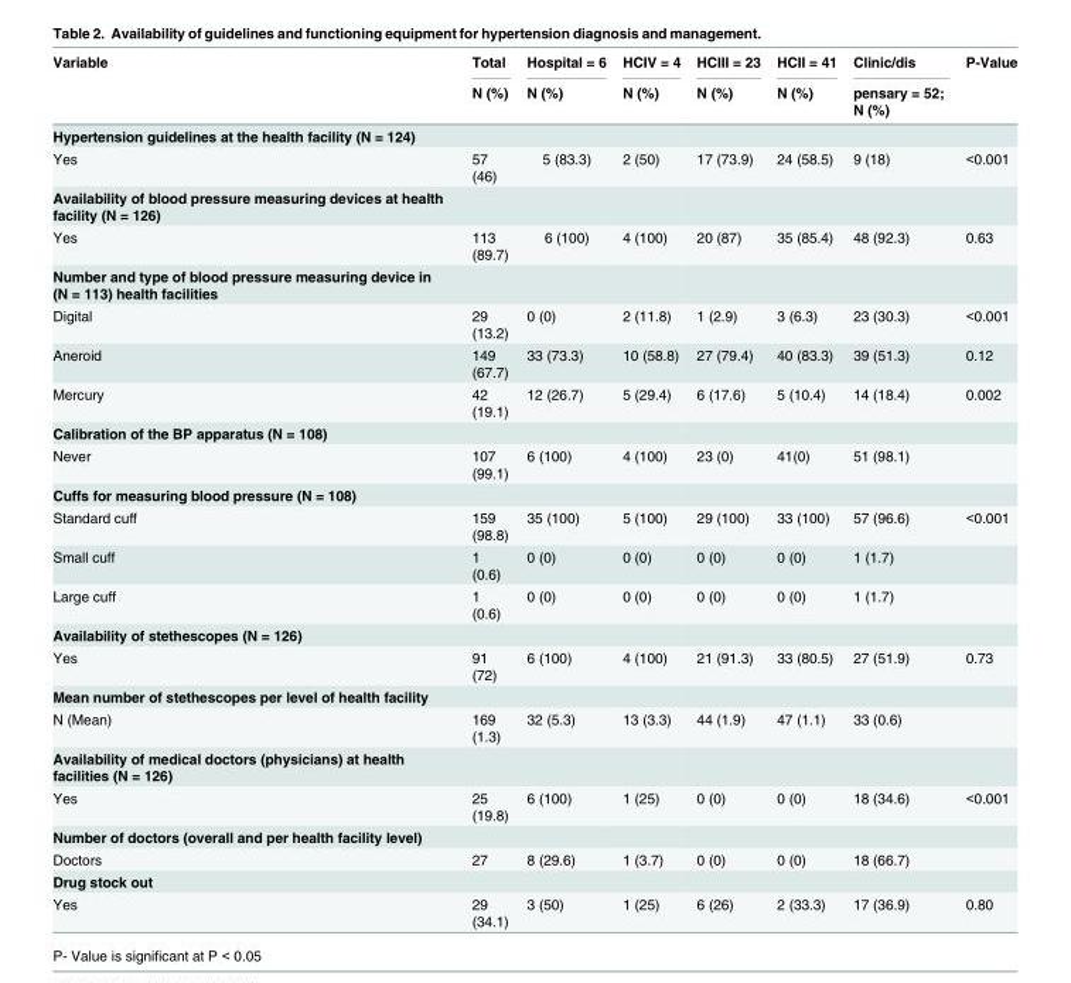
<table><thead><tr><td rowspan="2">Variable</td><td rowspan="2">Total N (%)</td><td rowspan="2">Hospital = 6 N (%)</td><td rowspan="2">HCIV = 4 N (%)</td><td rowspan="2">HCIII = 23 N (%)</td><td rowspan="2">HCII = 41 N (%)</td><td rowspan="2">Clinic/dis pensary = 52; N (%)</td><td rowspan="2">P-Value</td></tr><tr></tr></thead><tbody><tr><td colspan="8">Hypertension guidelines at the health facility (N = 124)</td></tr><tr><td>Yes</td><td>57 (46)</td><td>5 (83.3)</td><td>2 (50)</td><td>17 (73.9)</td><td>24 (58.5)</td><td>9 (18)</td><td>&lt;0.001</td></tr><tr><td colspan="8">Availability of blood pressure measuring devices at health facility (N = 126)</td></tr><tr><td>Yes</td><td>113 (89.7)</td><td>6 (100)</td><td>4 (100)</td><td>20 (87)</td><td>35 (85.4)</td><td>48 (92.3)</td><td>0.63</td></tr><tr><td colspan="8">Number and type of blood pressure measuring device in (N = 113) health facilities</td></tr><tr><td>Digital</td><td>29 (13.2)</td><td>0 (0)</td><td>2 (11.8)</td><td>1 (2.9)</td><td>3 (6.3)</td><td>23 (30.3)</td><td>&lt;0.001</td></tr><tr><td>Aneroid</td><td>149 (67.7)</td><td>33 (73.3)</td><td>10 (58.8)</td><td>27 (79.4)</td><td>40 (83.3)</td><td>39 (51.3)</td><td>0.12</td></tr><tr><td>Mercury</td><td>42 (19.1)</td><td>12 (26.7)</td><td>5 (29.4)</td><td>6 (17.6)</td><td>5 (10.4)</td><td>14 (18.4)</td><td>0.002</td></tr><tr><td colspan="8">Calibration of the BP apparatus (N = 108)</td></tr><tr><td>Never</td><td>107 (99.1)</td><td>6 (100)</td><td>4 (100)</td><td>23 (0)</td><td>41(0)</td><td>51 (98.1)</td><td></td></tr><tr><td colspan="8">Cuffs for measuring blood pressure (N = 108)</td></tr><tr><td>Standard cuff</td><td>159 (98.8)</td><td>35 (100)</td><td>5 (100)</td><td>29 (100)</td><td>33 (100)</td><td>57 (96.6)</td><td>&lt;0.001</td></tr><tr><td>Small cuff</td><td>1 (0.6)</td><td>0 (0)</td><td>0 (0)</td><td>0 (0)</td><td>0 (0)</td><td>1 (1.7)</td><td></td></tr><tr><td>Large cuff</td><td>1 (0.6)</td><td>0 (0)</td><td>0 (0)</td><td>0 (0)</td><td>0 (0)</td><td>1 (1.7)</td><td></td></tr><tr><td colspan="8">Availability of stethescopes (N = 126)</td></tr><tr><td>Yes</td><td>91 (72)</td><td>6 (100)</td><td>4 (100)</td><td>21 (91.3)</td><td>33 (80.5)</td><td>27 (51.9)</td><td>0.73</td></tr><tr><td colspan="8">Mean number of stethescopes per level of health facility</td></tr><tr><td>N (Mean)</td><td>169 (1.3)</td><td>32 (5.3)</td><td>13 (3.3)</td><td>44 (1.9)</td><td>47 (1.1)</td><td>33 (0.6)</td><td></td></tr><tr><td colspan="8">Availability of medical doctors (physicians) at health facilities (N = 126)</td></tr><tr><td>Yes</td><td>25 (19.8)</td><td>6 (100)</td><td>1 (25)</td><td>0 (0)</td><td>0 (0)</td><td>18 (34.6)</td><td>&lt;0.001</td></tr><tr><td colspan="8">Number of doctors (overall and per health facility level)</td></tr><tr><td>Doctors</td><td>27</td><td>8 (29.6)</td><td>1 (3.7)</td><td>0 (0)</td><td>0 (0)</td><td>18 (66.7)</td><td></td></tr><tr><td colspan="8">Drug stock out</td></tr><tr><td>Yes</td><td>29 (34.1)</td><td>3 (50)</td><td>1 (25)</td><td>6 (26)</td><td>2 (33.3)</td><td>17 (36.9)</td><td>0.80</td></tr></tbody></table>